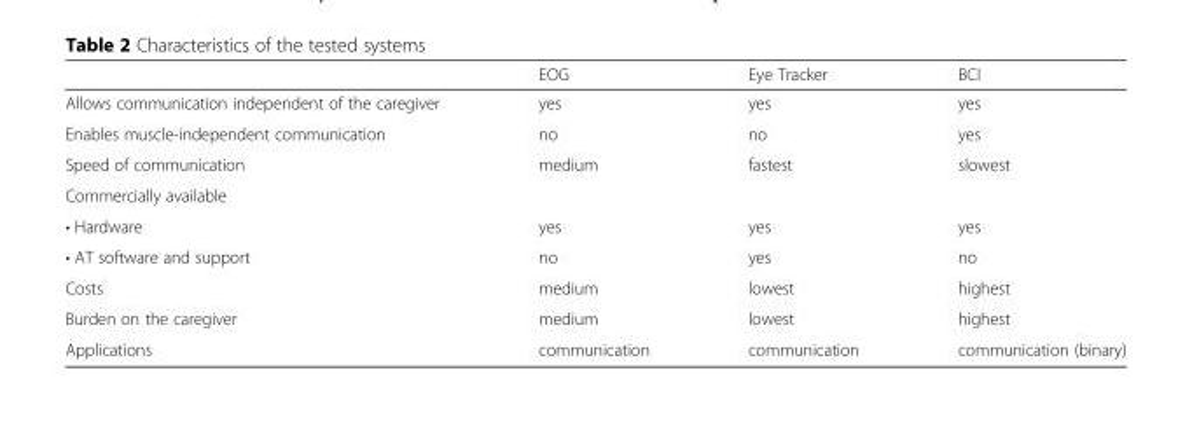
<table><thead><tr><td></td><td>EOG</td><td>Eye Tracker</td><td>BCI</td></tr></thead><tbody><tr><td>Allows communication independent of the caregiver</td><td>yes</td><td>yes</td><td>yes</td></tr><tr><td>Enables muscle-independent communication</td><td>no</td><td>no</td><td>yes</td></tr><tr><td>Speed of communication</td><td>medium</td><td>fastest</td><td>slowest</td></tr><tr><td colspan="4">Commercially available</td></tr><tr><td>• Hardware</td><td>yes</td><td>yes</td><td>yes</td></tr><tr><td>• AT software and support</td><td>no</td><td>yes</td><td>no</td></tr><tr><td>Costs</td><td>medium</td><td>lowest</td><td>highest</td></tr><tr><td>Burden on the caregiver</td><td>medium</td><td>lowest</td><td>highest</td></tr><tr><td>Applications</td><td>communication</td><td>communication</td><td>communication (binary)</td></tr></tbody></table>